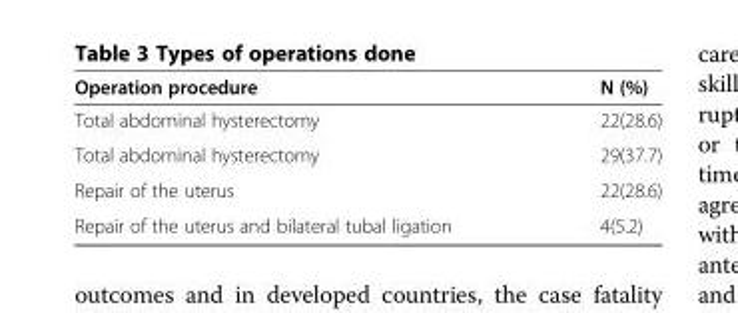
<table><thead><tr><td>Operation procedure</td><td>N (%)</td></tr></thead><tbody><tr><td>Total abdominal hysterectomy</td><td>22(28.6)</td></tr><tr><td>Total abdominal hysterectomy</td><td>29(37.7)</td></tr><tr><td>Repair of the uterus</td><td>22(28.6)</td></tr><tr><td>Repair of the uterus and bilateral tubal ligation</td><td>4(5.2)</td></tr></tbody></table>